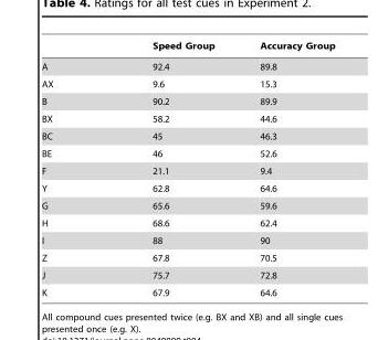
<table><thead><tr><td></td><td>Speed Group</td><td>Accuracy Group</td></tr></thead><tbody><tr><td>A</td><td>92.4</td><td>89.8</td></tr><tr><td>AX</td><td>9.6</td><td>15.3</td></tr><tr><td>B</td><td>90.2</td><td>89.9</td></tr><tr><td>BX</td><td>58.2</td><td>44.6</td></tr><tr><td>BC</td><td>45</td><td>46.3</td></tr><tr><td>BE</td><td>46</td><td>52.6</td></tr><tr><td>F</td><td>21.1</td><td>9.4</td></tr><tr><td>Y</td><td>62.8</td><td>64.6</td></tr><tr><td>G</td><td>65.6</td><td>59.6</td></tr><tr><td>H</td><td>68.6</td><td>62.4</td></tr><tr><td>I</td><td>88</td><td>90</td></tr><tr><td>Z</td><td>67.8</td><td>70.5</td></tr><tr><td>J</td><td>75.7</td><td>72.8</td></tr><tr><td>K</td><td>67.9</td><td>64.6</td></tr></tbody></table>